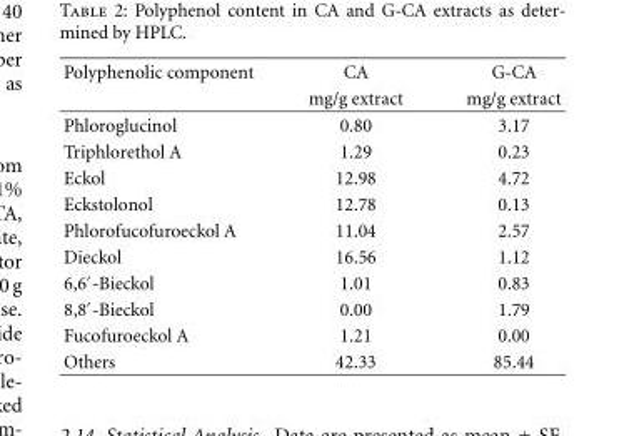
<table><thead><tr><td rowspan="2">Polyphenolic component</td><td rowspan="2">CA mg/g extract</td><td rowspan="2">G-CA mg/g extract</td></tr><tr></tr></thead><tbody><tr><td>Phloroglucinol</td><td>0.80</td><td>3.17</td></tr><tr><td>Triphlorethol A</td><td>1.29</td><td>0.23</td></tr><tr><td>Eckol</td><td>12.98</td><td>4.72</td></tr><tr><td>Eckstolonol</td><td>12.78</td><td>0.13</td></tr><tr><td>Phlorofucofuroeckol A</td><td>11.04</td><td>2.57</td></tr><tr><td>Dieckol</td><td>16.56</td><td>1.12</td></tr><tr><td>6,6<sup>′</sup>-Bieckol</td><td>1.01</td><td>0.83</td></tr><tr><td>8,8<sup>′</sup>-Bieckol</td><td>0.00</td><td>1.79</td></tr><tr><td>Fucofuroeckol A</td><td>1.21</td><td>0.00</td></tr><tr><td>Others</td><td>42.33</td><td>85.44</td></tr></tbody></table>